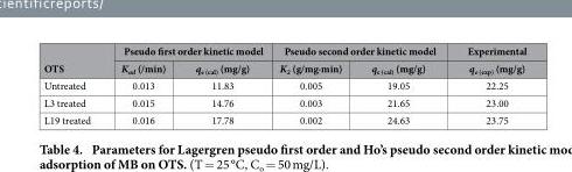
<table><thead><tr><td rowspan="2">OTS</td><td colspan="2">Pseudo first order kinetic model</td><td colspan="2">Pseudo second order kinetic model</td><td rowspan="2">Experimental q<sub>e (exp)</sub> (mg/g)</td></tr><tr><td>K<sub>ad</sub> (/min)</td><td>q<sub>e (cal)</sub> (mg/g)</td><td>K<sub>2</sub> (g/mg·min)</td><td>q<sub>e (cal)</sub> (mg/g)</td></tr></thead><tbody><tr><td>Untreated</td><td>0.013</td><td>11.83</td><td>0.005</td><td>19.05</td><td>22.25</td></tr><tr><td>L3 treated</td><td>0.015</td><td>14.76</td><td>0.003</td><td>21.65</td><td>23.00</td></tr><tr><td>L19 treated</td><td>0.016</td><td>17.78</td><td>0.002</td><td>24.63</td><td>23.75</td></tr></tbody></table>